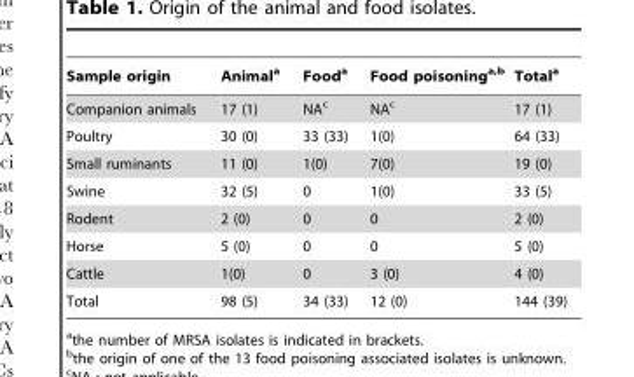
<table><thead><tr><td>Sample origin</td><td>Animal<sup>a</sup></td><td>Food<sup>a</sup></td><td>Food poisoninga,b</td><td>Total<sup>a</sup></td></tr></thead><tbody><tr><td>Companion animals</td><td>17 (1)</td><td>NA<sup>c</sup></td><td>NA<sup>c</sup></td><td>17 (1)</td></tr><tr><td>Poultry</td><td>30 (0)</td><td>33 (33)</td><td>1(0)</td><td>64 (33)</td></tr><tr><td>Small ruminants</td><td>11 (0)</td><td>1(0)</td><td>7(0)</td><td>19 (0)</td></tr><tr><td>Swine</td><td>32 (5)</td><td>0</td><td>1(0)</td><td>33 (5)</td></tr><tr><td>Rodent</td><td>2 (0)</td><td>0</td><td>0</td><td>2 (0)</td></tr><tr><td>Horse</td><td>5 (0)</td><td>0</td><td>0</td><td>5 (0)</td></tr><tr><td>Cattle</td><td>1(0)</td><td>0</td><td>3 (0)</td><td>4 (0)</td></tr><tr><td>Total</td><td>98 (5)</td><td>34 (33)</td><td>12 (0)</td><td>144 (39)</td></tr></tbody></table>